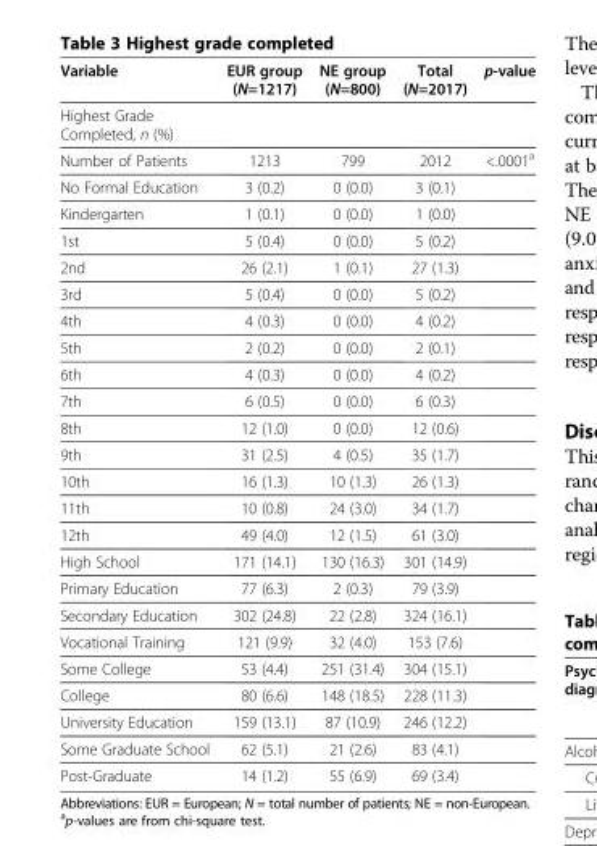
<table><thead><tr><td>Variable</td><td>EUR group (N=1217)</td><td>NE group (N=800)</td><td>Total (N=2017)</td><td>p-value</td></tr></thead><tbody><tr><td colspan="5">Highest Grade Completed, n (%)</td></tr><tr><td>Number of Patients</td><td>1213</td><td>799</td><td>2012</td><td>&lt;.0001<sup>a</sup></td></tr><tr><td>No Formal Education</td><td>3 (0.2)</td><td>0 (0.0)</td><td>3 (0.1)</td><td></td></tr><tr><td>Kindergarten</td><td>1 (0.1)</td><td>0 (0.0)</td><td>1 (0.0)</td><td></td></tr><tr><td>1st</td><td>5 (0.4)</td><td>0 (0.0)</td><td>5 (0.2)</td><td></td></tr><tr><td>2nd</td><td>26 (2.1)</td><td>1 (0.1)</td><td>27 (1.3)</td><td></td></tr><tr><td>3rd</td><td>5 (0.4)</td><td>0 (0.0)</td><td>5 (0.2)</td><td></td></tr><tr><td>4th</td><td>4 (0.3)</td><td>0 (0.0)</td><td>4 (0.2)</td><td></td></tr><tr><td>5th</td><td>2 (0.2)</td><td>0 (0.0)</td><td>2 (0.1)</td><td></td></tr><tr><td>6th</td><td>4 (0.3)</td><td>0 (0.0)</td><td>4 (0.2)</td><td></td></tr><tr><td>7th</td><td>6 (0.5)</td><td>0 (0.0)</td><td>6 (0.3)</td><td></td></tr><tr><td>8th</td><td>12 (1.0)</td><td>0 (0.0)</td><td>12 (0.6)</td><td></td></tr><tr><td>9th</td><td>31 (2.5)</td><td>4 (0.5)</td><td>35 (1.7)</td><td></td></tr><tr><td>10th</td><td>16 (1.3)</td><td>10 (1.3)</td><td>26 (1.3)</td><td></td></tr><tr><td>11th</td><td>10 (0.8)</td><td>24 (3.0)</td><td>34 (1.7)</td><td></td></tr><tr><td>12th</td><td>49 (4.0)</td><td>12 (1.5)</td><td>61 (3.0)</td><td></td></tr><tr><td>High School</td><td>171 (14.1)</td><td>130 (16.3)</td><td>301 (14.9)</td><td></td></tr><tr><td>Primary Education</td><td>77 (6.3)</td><td>2 (0.3)</td><td>79 (3.9)</td><td></td></tr><tr><td>Secondary Education</td><td>302 (24.8)</td><td>22 (2.8)</td><td>324 (16.1)</td><td></td></tr><tr><td>Vocational Training</td><td>121 (9.9)</td><td>32 (4.0)</td><td>153 (7.6)</td><td></td></tr><tr><td>Some College</td><td>53 (4.4)</td><td>251 (31.4)</td><td>304 (15.1)</td><td></td></tr><tr><td>College</td><td>80 (6.6)</td><td>148 (18.5)</td><td>228 (11.3)</td><td></td></tr><tr><td>University Education</td><td>159 (13.1)</td><td>87 (10.9)</td><td>246 (12.2)</td><td></td></tr><tr><td>Some Graduate School</td><td>62 (5.1)</td><td>21 (2.6)</td><td>83 (4.1)</td><td></td></tr><tr><td>Post-Graduate</td><td>14 (1.2)</td><td>55 (6.9)</td><td>69 (3.4)</td><td></td></tr></tbody></table>